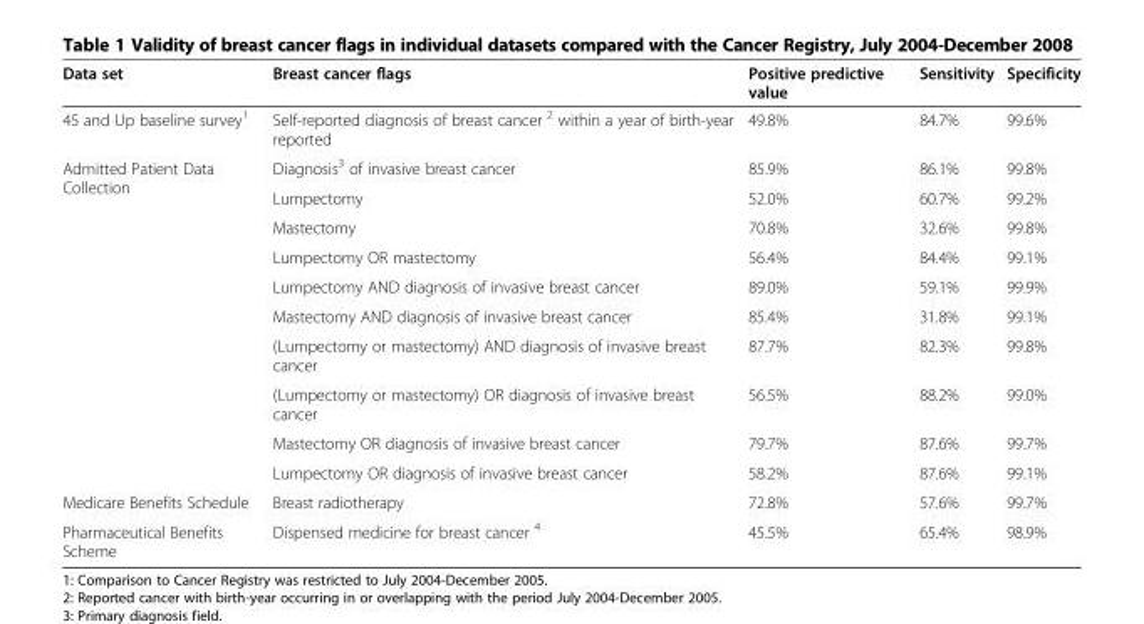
<table><thead><tr><td>Data set</td><td>Breast cancer flags</td><td>Positive predictive value</td><td>Sensitivity</td><td>Specificity</td></tr></thead><tbody><tr><td>45 and Up baseline survey<sup>1</sup></td><td>Self-reported diagnosis of breast cancer <sup>2</sup> within a year of birth-year reported</td><td>49.8%</td><td>84.7%</td><td>99.6%</td></tr><tr><td rowspan="10">Admitted Patient Data Collection</td><td>Diagnosis<sup>3</sup> of invasive breast cancer</td><td>85.9%</td><td>86.1%</td><td>99.8%</td></tr><tr><td>Lumpectomy</td><td>52.0%</td><td>60.7%</td><td>99.2%</td></tr><tr><td>Mastectomy</td><td>70.8%</td><td>32.6%</td><td>99.8%</td></tr><tr><td>Lumpectomy OR mastectomy</td><td>56.4%</td><td>84.4%</td><td>99.1%</td></tr><tr><td>Lumpectomy AND diagnosis of invasive breast cancer</td><td>89.0%</td><td>59.1%</td><td>99.9%</td></tr><tr><td>Mastectomy AND diagnosis of invasive breast cancer</td><td>85.4%</td><td>31.8%</td><td>99.1%</td></tr><tr><td>(Lumpectomy or mastectomy) AND diagnosis of invasive breast cancer</td><td>87.7%</td><td>82.3%</td><td>99.8%</td></tr><tr><td>(Lumpectomy or mastectomy) OR diagnosis of invasive breast cancer</td><td>56.5%</td><td>88.2%</td><td>99.0%</td></tr><tr><td>Mastectomy OR diagnosis of invasive breast cancer</td><td>79.7%</td><td>87.6%</td><td>99.7%</td></tr><tr><td>Lumpectomy OR diagnosis of invasive breast cancer</td><td>58.2%</td><td>87.6%</td><td>99.1%</td></tr><tr><td>Medicare Benefits Schedule</td><td>Breast radiotherapy</td><td>72.8%</td><td>57.6%</td><td>99.7%</td></tr><tr><td>Pharmaceutical Benefits Scheme</td><td>Dispensed medicine for breast cancer <sup>4</sup></td><td>45.5%</td><td>65.4%</td><td>98.9%</td></tr></tbody></table>